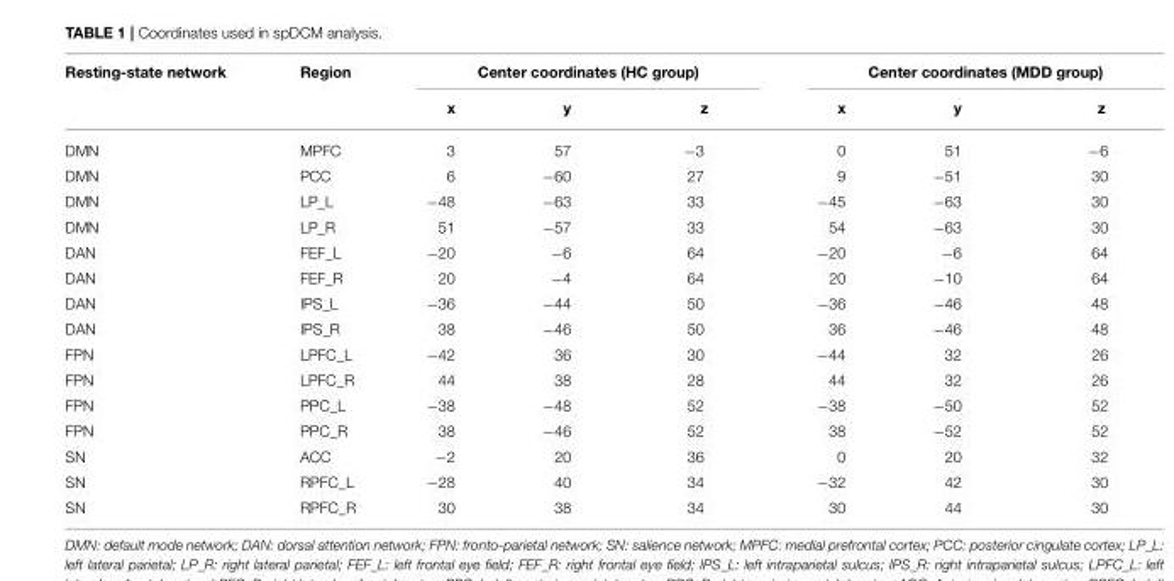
<table><thead><tr><td rowspan="2">Resting-state network</td><td rowspan="2">Region</td><td colspan="3">Center coordinates (HC group)</td><td colspan="3">Center coordinates (MDD group)</td></tr><tr><td>x</td><td>y</td><td>z</td><td>x</td><td>y</td><td>z</td></tr></thead><tbody><tr><td>DMN</td><td>MPFC</td><td>3</td><td>57</td><td>−3</td><td>0</td><td>51</td><td>−6</td></tr><tr><td>DMN</td><td>PCC</td><td>6</td><td>−60</td><td>27</td><td>9</td><td>−51</td><td>30</td></tr><tr><td>DMN</td><td>LP_L</td><td>−48</td><td>−63</td><td>33</td><td>−45</td><td>−63</td><td>30</td></tr><tr><td>DMN</td><td>LP_R</td><td>51</td><td>−57</td><td>33</td><td>54</td><td>−63</td><td>30</td></tr><tr><td>DAN</td><td>FEF_L</td><td>−20</td><td>−6</td><td>64</td><td>−20</td><td>−6</td><td>64</td></tr><tr><td>DAN</td><td>FEF_R</td><td>20</td><td>−4</td><td>64</td><td>20</td><td>−10</td><td>64</td></tr><tr><td>DAN</td><td>IPS_L</td><td>−36</td><td>−44</td><td>50</td><td>−36</td><td>−46</td><td>48</td></tr><tr><td>DAN</td><td>IPS_R</td><td>38</td><td>−46</td><td>50</td><td>36</td><td>−46</td><td>48</td></tr><tr><td>FPN</td><td>LPFC_L</td><td>−42</td><td>36</td><td>30</td><td>−44</td><td>32</td><td>26</td></tr><tr><td>FPN</td><td>LPFC_R</td><td>44</td><td>38</td><td>28</td><td>44</td><td>32</td><td>26</td></tr><tr><td>FPN</td><td>PPC_L</td><td>−38</td><td>−48</td><td>52</td><td>−38</td><td>−50</td><td>52</td></tr><tr><td>FPN</td><td>PPC_R</td><td>38</td><td>−46</td><td>52</td><td>38</td><td>−52</td><td>52</td></tr><tr><td>SN</td><td>ACC</td><td>−2</td><td>20</td><td>36</td><td>0</td><td>20</td><td>32</td></tr><tr><td>SN</td><td>RPFC_L</td><td>−28</td><td>40</td><td>34</td><td>−32</td><td>42</td><td>30</td></tr><tr><td>SN</td><td>RPFC_R</td><td>30</td><td>38</td><td>34</td><td>30</td><td>44</td><td>30</td></tr></tbody></table>